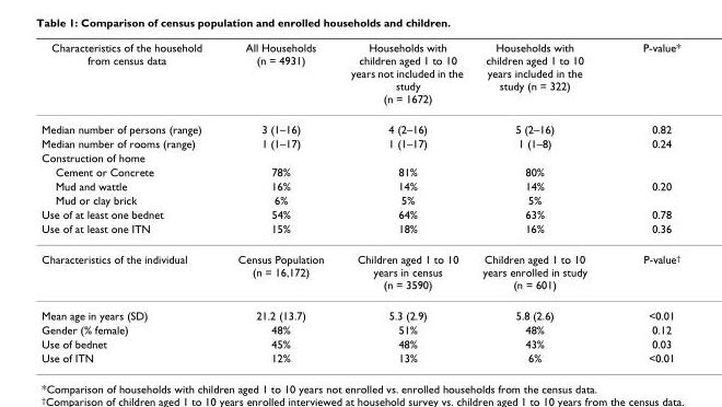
<table><thead><tr><td>Characteristics of the household from census data</td><td>All Households (n = 4931)</td><td>Households with children aged 1 to 10 years not included in the study (n = 1672)</td><td>Households with children aged 1 to 10 years included in the study (n = 322)</td><td>P-value*</td></tr></thead><tbody><tr><td>Median number of persons (range)</td><td>3 (1–16)</td><td>4 (2–16)</td><td>5 (2–16)</td><td>0.82</td></tr><tr><td>Median number of rooms (range)</td><td>1 (1–17)</td><td>1 (1–17)</td><td>1 (1–8)</td><td>0.24</td></tr><tr><td colspan="5">Construction of home</td></tr><tr><td>Cement or Concrete</td><td>78%</td><td>81%</td><td>80%</td><td></td></tr><tr><td>Mud and wattle</td><td>16%</td><td>14%</td><td>14%</td><td>0.20</td></tr><tr><td>Mud or clay brick</td><td>6%</td><td>5%</td><td>5%</td><td></td></tr><tr><td>Use of at least one bednet</td><td>54%</td><td>64%</td><td>63%</td><td>0.78</td></tr><tr><td>Use of at least one ITN</td><td>15%</td><td>18%</td><td>16%</td><td>0.36</td></tr><tr><td>Characteristics of the individual</td><td>Census Population (n = 16,172)</td><td>Children aged 1 to 10 years in census (n = 3590)</td><td>Children aged 1 to 10 years enrolled in study (n = 601)</td><td>P-value<sup>†</sup></td></tr><tr><td>Mean age in years (SD)</td><td>21.2 (13.7)</td><td>5.3 (2.9)</td><td>5.8 (2.6)</td><td>&lt;0.01</td></tr><tr><td>Gender (% female)</td><td>48%</td><td>51%</td><td>48%</td><td>0.12</td></tr><tr><td>Use of bednet</td><td>45%</td><td>48%</td><td>43%</td><td>0.03</td></tr><tr><td>Use of ITN</td><td>12%</td><td>13%</td><td>6%</td><td>&lt;0.01</td></tr></tbody></table>